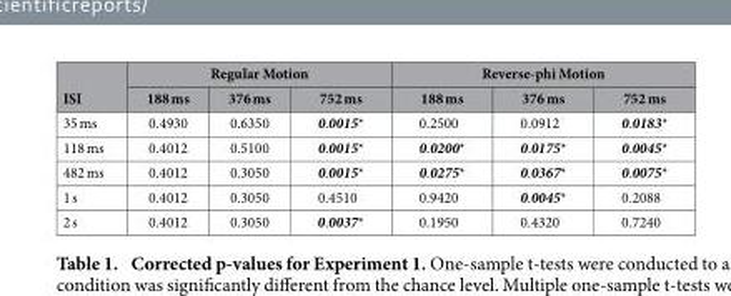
<table><thead><tr><td rowspan="2">ISI</td><td colspan="3">Regular Motion</td><td colspan="3">Reverse-phi Motion</td></tr><tr><td>188 ms</td><td>376 ms</td><td>752 ms</td><td>188 ms</td><td>376 ms</td><td>752 ms</td></tr></thead><tbody><tr><td>35 ms</td><td>0.4930</td><td>0.6350</td><td>0.0015*</td><td>0.2500</td><td>0.0912</td><td>0.0183*</td></tr><tr><td>118 ms</td><td>0.4012</td><td>0.5100</td><td>0.0015*</td><td>0.0200*</td><td>0.0175*</td><td>0.0045*</td></tr><tr><td>482 ms</td><td>0.4012</td><td>0.3050</td><td>0.0015*</td><td>0.0275*</td><td>0.0367*</td><td>0.0075*</td></tr><tr><td>1 s</td><td>0.4012</td><td>0.3050</td><td>0.4510</td><td>0.9420</td><td>0.0045*</td><td>0.2088</td></tr><tr><td>2 s</td><td>0.4012</td><td>0.3050</td><td>0.0037*</td><td>0.1950</td><td>0.4320</td><td>0.7240</td></tr></tbody></table>